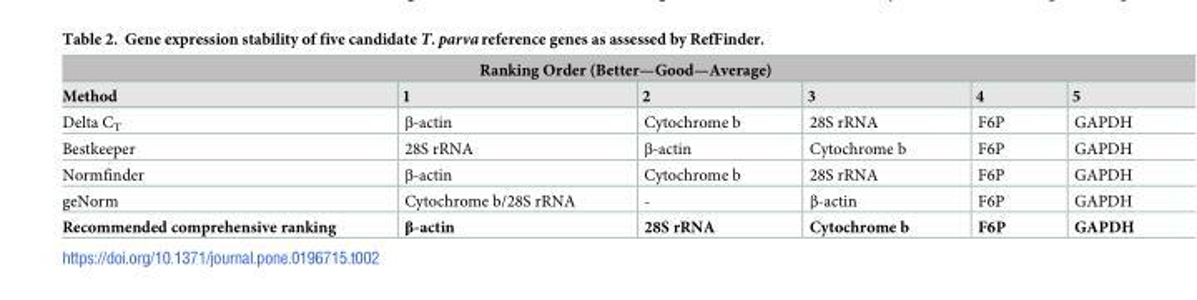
<table><thead><tr><td colspan="6">Ranking Order (Better—Good—Average)</td></tr><tr><td>Method</td><td>1</td><td>2</td><td>3</td><td>4</td><td>5</td></tr></thead><tbody><tr><td>Delta C<sub>T</sub></td><td>β-actin</td><td>Cytochrome b</td><td>28S rRNA</td><td>F6P</td><td>GAPDH</td></tr><tr><td>Bestkeeper</td><td>28S rRNA</td><td>β-actin</td><td>Cytochrome b</td><td>F6P</td><td>GAPDH</td></tr><tr><td>Normfinder</td><td>β-actin</td><td>Cytochrome b</td><td>28S rRNA</td><td>F6P</td><td>GAPDH</td></tr><tr><td>geNorm</td><td>Cytochrome b/28S rRNA</td><td>-</td><td>β-actin</td><td>F6P</td><td>GAPDH</td></tr><tr><td>Recommended comprehensive ranking</td><td>β-actin</td><td>28S rRNA</td><td>Cytochrome b</td><td>F6P</td><td>GAPDH</td></tr></tbody></table>